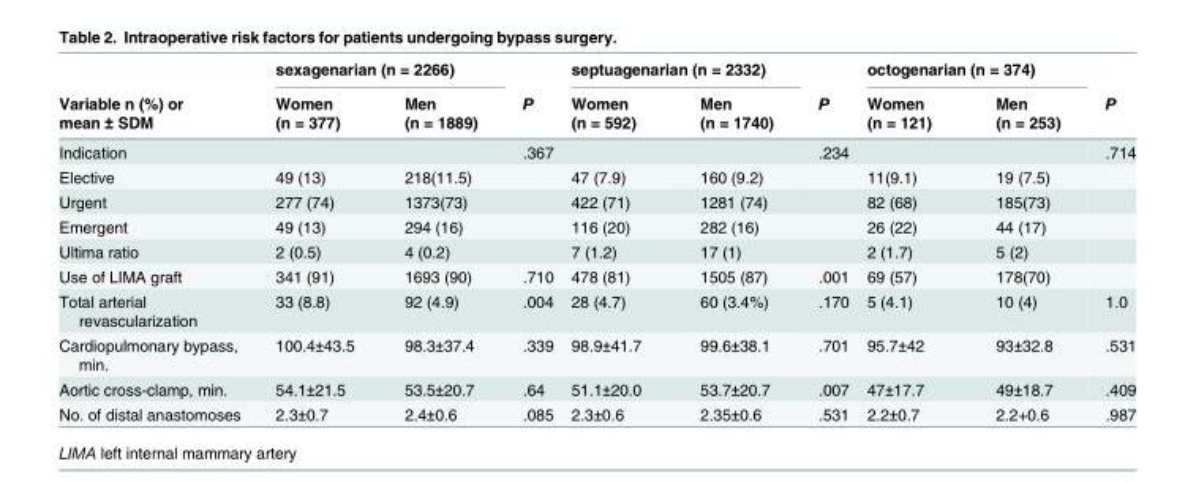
<table><thead><tr><td rowspan="2">Variable n (%) or mean ± SDM</td><td colspan="2">sexagenarian (n = 2266)</td><td rowspan="2">P</td><td colspan="2">septuagenarian (n = 2332)</td><td rowspan="2">P</td><td colspan="2">octogenarian (n = 374)</td><td rowspan="2">P</td></tr><tr><td>Women (n = 377)</td><td>Men (n = 1889)</td><td>Women (n = 592)</td><td>Men (n = 1740)</td><td>Women (n = 121)</td><td>Men (n = 253)</td></tr></thead><tbody><tr><td>Indication</td><td></td><td></td><td>.367</td><td></td><td></td><td>.234</td><td></td><td></td><td>.714</td></tr><tr><td>Elective</td><td>49 (13)</td><td>218(11.5)</td><td></td><td>47 (7.9)</td><td>160 (9.2)</td><td></td><td>11(9.1)</td><td>19 (7.5)</td><td></td></tr><tr><td>Urgent</td><td>277 (74)</td><td>1373(73)</td><td></td><td>422 (71)</td><td>1281 (74)</td><td></td><td>82 (68)</td><td>185(73)</td><td></td></tr><tr><td>Emergent</td><td>49 (13)</td><td>294 (16)</td><td></td><td>116 (20)</td><td>282 (16)</td><td></td><td>26 (22)</td><td>44 (17)</td><td></td></tr><tr><td>Ultima ratio</td><td>2 (0.5)</td><td>4 (0.2)</td><td></td><td>7 (1.2)</td><td>17 (1)</td><td></td><td>2 (1.7)</td><td>5 (2)</td><td></td></tr><tr><td>Use of LIMA graft</td><td>341 (91)</td><td>1693 (90)</td><td>.710</td><td>478 (81)</td><td>1505 (87)</td><td>.001</td><td>69 (57)</td><td>178(70)</td><td></td></tr><tr><td>Total arterial revascularization</td><td>33 (8.8)</td><td>92 (4.9)</td><td>.004</td><td>28 (4.7)</td><td>60 (3.4%)</td><td>.170</td><td>5 (4.1)</td><td>10 (4)</td><td>1.0</td></tr><tr><td>Cardiopulmonary bypass, min.</td><td>100.4±43.5</td><td>98.3±37.4</td><td>.339</td><td>98.9±41.7</td><td>99.6±38.1</td><td>.701</td><td>95.7±42</td><td>93±32.8</td><td>.531</td></tr><tr><td>Aortic cross-clamp, min.</td><td>54.1±21.5</td><td>53.5±20.7</td><td>.64</td><td>51.1±20.0</td><td>53.7±20.7</td><td>.007</td><td>47±17.7</td><td>49±18.7</td><td>.409</td></tr><tr><td>No. of distal anastomoses</td><td>2.3±0.7</td><td>2.4±0.6</td><td>.085</td><td>2.3±0.6</td><td>2.35±0.6</td><td>.531</td><td>2.2±0.7</td><td>2.2+0.6</td><td>.987</td></tr></tbody></table>